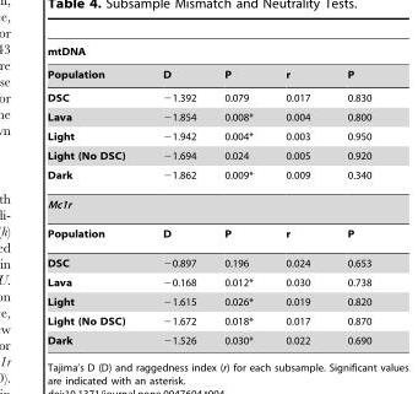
<table><thead><tr><td colspan="5">mtDNA</td></tr><tr><td>Population</td><td>D</td><td>P</td><td>r</td><td>P</td></tr></thead><tbody><tr><td>DSC</td><td>−1.392</td><td>0.079</td><td>0.017</td><td>0.830</td></tr><tr><td>Lava</td><td>−1.854</td><td>0.008*</td><td>0.004</td><td>0.800</td></tr><tr><td>Light</td><td>−1.942</td><td>0.004*</td><td>0.003</td><td>0.950</td></tr><tr><td>Light (No DSC)</td><td>−1.694</td><td>0.024</td><td>0.005</td><td>0.920</td></tr><tr><td>Dark</td><td>−1.862</td><td>0.009*</td><td>0.009</td><td>0.340</td></tr><tr><td colspan="5">Mc1r</td></tr><tr><td>Population</td><td>D</td><td>P</td><td>r</td><td>P</td></tr><tr><td>DSC</td><td>−0.897</td><td>0.196</td><td>0.024</td><td>0.653</td></tr><tr><td>Lava</td><td>−0.168</td><td>0.012*</td><td>0.030</td><td>0.738</td></tr><tr><td>Light</td><td>−1.615</td><td>0.026*</td><td>0.019</td><td>0.820</td></tr><tr><td>Light (No DSC)</td><td>−1.672</td><td>0.018*</td><td>0.017</td><td>0.870</td></tr><tr><td>Dark</td><td>−1.526</td><td>0.030*</td><td>0.022</td><td>0.690</td></tr></tbody></table>